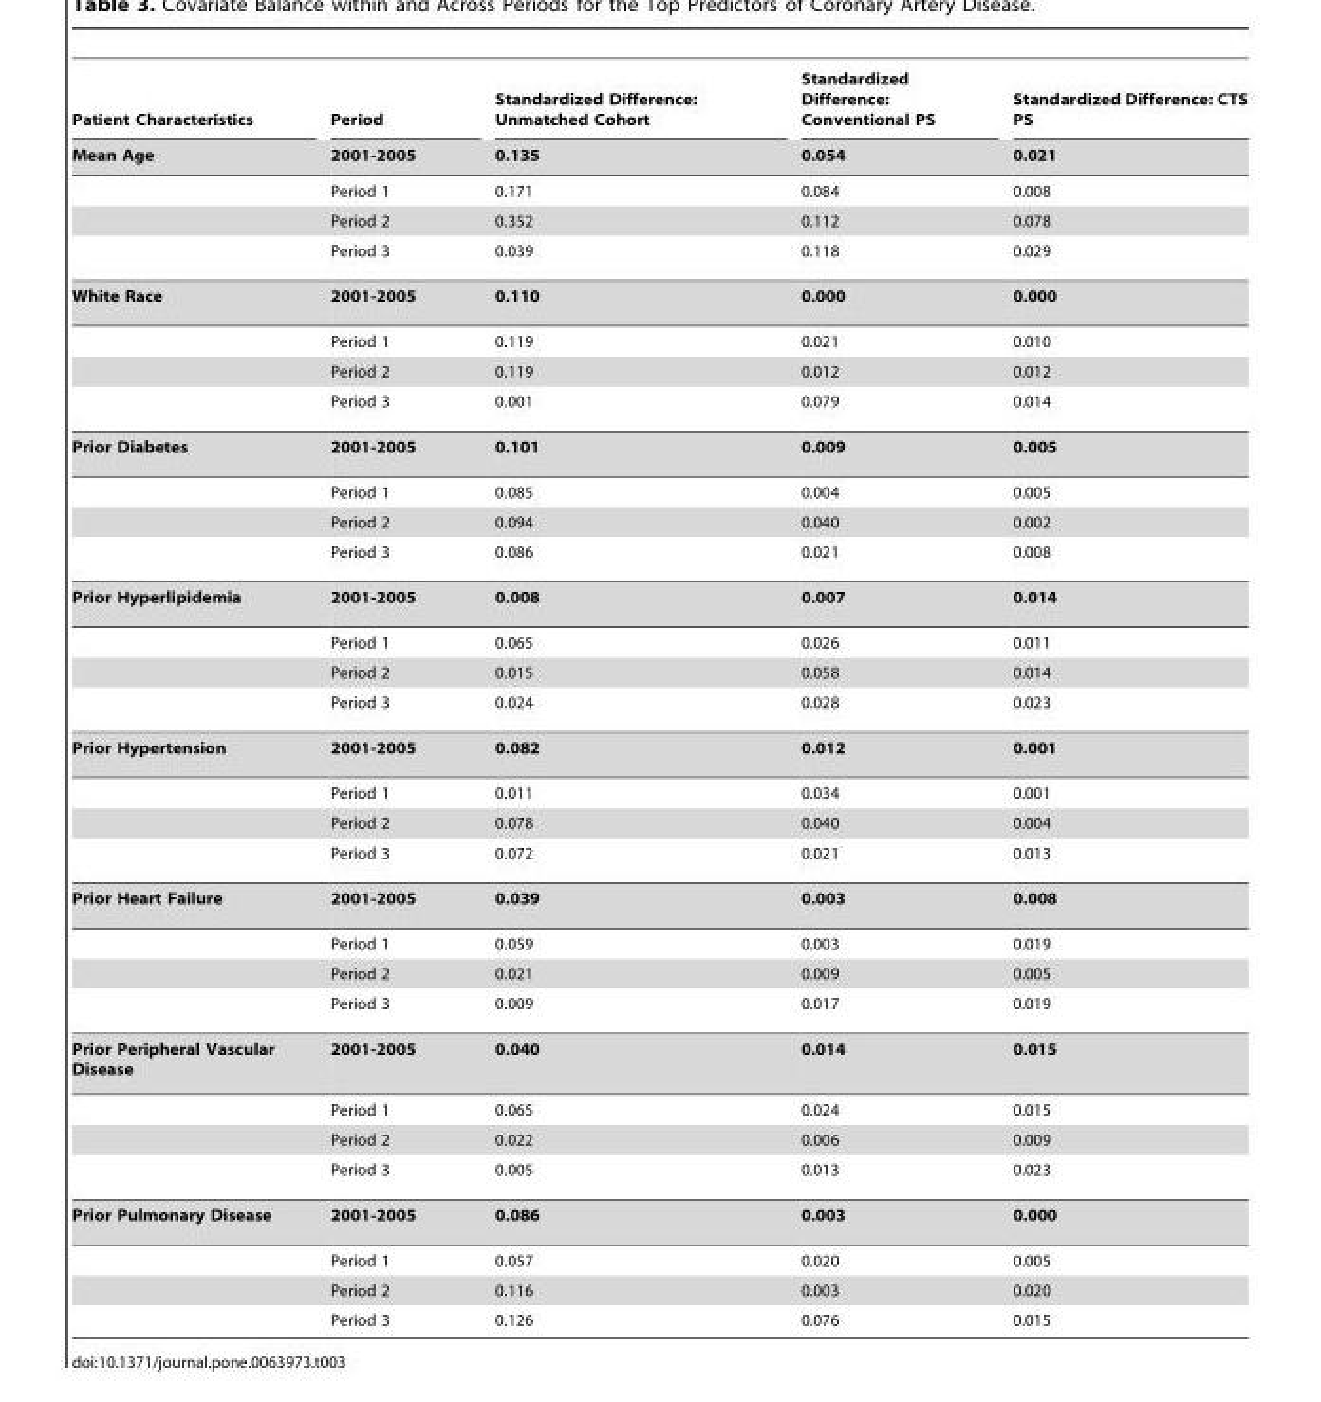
<table><thead><tr><td rowspan="2">Patient Characteristics Mean Age</td><td rowspan="2">Period 2001-2005</td><td rowspan="2">Standardized Difference: Unmatched Cohort 0.135</td><td rowspan="2">Standardized Difference: Conventional PS 0.054</td><td rowspan="2">Standardized Difference: CTS PS 0.021</td></tr><tr></tr></thead><tbody><tr><td></td><td>Period 1</td><td>0.171</td><td>0.084</td><td>0.008</td></tr><tr><td></td><td>Period 2</td><td>0.352</td><td>0.112</td><td>0.078</td></tr><tr><td></td><td>Period 3</td><td>0.039</td><td>0.118</td><td>0.029</td></tr><tr><td rowspan="4">White Race</td><td>2001-2005</td><td>0.110</td><td>0.000</td><td>0.000</td></tr><tr><td>Period 1</td><td>0.119</td><td>0.021</td><td>0.010</td></tr><tr><td>Period 2</td><td>0.119</td><td>0.012</td><td>0.012</td></tr><tr><td>Period 3</td><td>0.001</td><td>0.079</td><td>0.014</td></tr><tr><td rowspan="4">Prior Diabetes</td><td>2001-2005</td><td>0.101</td><td>0.009</td><td>0.005</td></tr><tr><td>Period 1</td><td>0.085</td><td>0.004</td><td>0.005</td></tr><tr><td>Period 2</td><td>0.094</td><td>0.040</td><td>0.002</td></tr><tr><td>Period 3</td><td>0.086</td><td>0.021</td><td>0.008</td></tr><tr><td rowspan="4">Prior Hyperlipidemia</td><td>2001-2005</td><td>0.008</td><td>0.007</td><td>0.014</td></tr><tr><td>Period 1</td><td>0.065</td><td>0.026</td><td>0.011</td></tr><tr><td>Period 2</td><td>0.015</td><td>0.058</td><td>0.014</td></tr><tr><td>Period 3</td><td>0.024</td><td>0.028</td><td>0.023</td></tr><tr><td rowspan="4">Prior Hypertension</td><td>2001-2005</td><td>0.082</td><td>0.012</td><td>0.001</td></tr><tr><td>Period 1</td><td>0.011</td><td>0.034</td><td>0.001</td></tr><tr><td>Period 2</td><td>0.078</td><td>0.040</td><td>0.004</td></tr><tr><td>Period 3</td><td>0.072</td><td>0.021</td><td>0.013</td></tr><tr><td rowspan="4">Prior Heart Failure</td><td>2001-2005</td><td>0.039</td><td>0.003</td><td>0.008</td></tr><tr><td>Period 1</td><td>0.059</td><td>0.003</td><td>0.019</td></tr><tr><td>Period 2</td><td>0.021</td><td>0.009</td><td>0.005</td></tr><tr><td>Period 3</td><td>0.009</td><td>0.017</td><td>0.019</td></tr><tr><td rowspan="4">Prior Peripheral Vascular Disease</td><td>2001-2005</td><td>0.040</td><td>0.014</td><td>0.015</td></tr><tr><td>Period 1</td><td>0.065</td><td>0.024</td><td>0.015</td></tr><tr><td>Period 2</td><td>0.022</td><td>0.006</td><td>0.009</td></tr><tr><td>Period 3</td><td>0.005</td><td>0.013</td><td>0.023</td></tr><tr><td rowspan="4">Prior Pulmonary Disease</td><td>2001-2005</td><td>0.086</td><td>0.003</td><td>0.000</td></tr><tr><td>Period 1</td><td>0.057</td><td>0.020</td><td>0.005</td></tr><tr><td>Period 2</td><td>0.116</td><td>0.003</td><td>0.020</td></tr><tr><td>Period 3</td><td>0.126</td><td>0.076</td><td>0.015</td></tr></tbody></table>